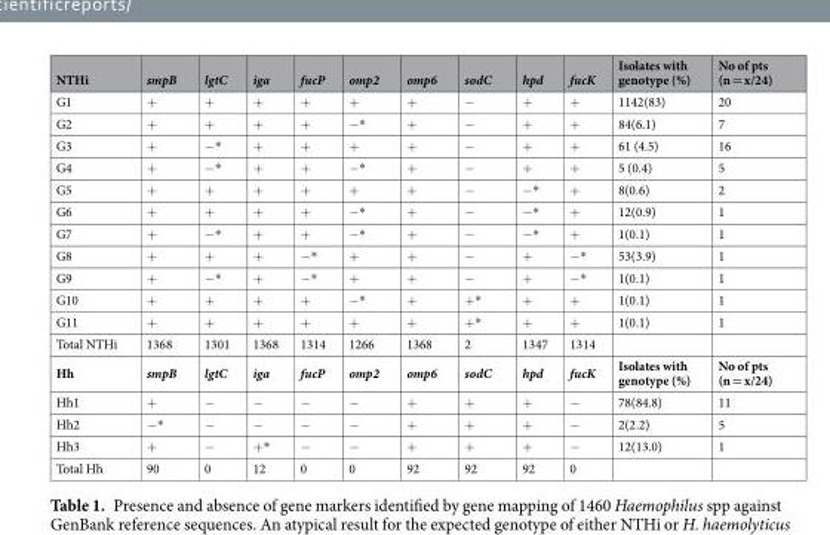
<table><thead><tr><td>NTHi</td><td>smpB</td><td>lgtC</td><td>iga</td><td>fucP</td><td>omp2</td><td>omp6</td><td>sodC</td><td>hpd</td><td>fucK</td><td>Isolates with genotype (%)</td><td>No of pts (n = x/24)</td></tr></thead><tbody><tr><td>G1</td><td>+</td><td>+</td><td>+</td><td>+</td><td>+</td><td>+</td><td>−</td><td>+</td><td>+</td><td>1142(83)</td><td>20</td></tr><tr><td>G2</td><td>+</td><td>+</td><td>+</td><td>+</td><td>−*</td><td>+</td><td>−</td><td>+</td><td>+</td><td>84(6.1)</td><td>7</td></tr><tr><td>G3</td><td>+</td><td>−*</td><td>+</td><td>+</td><td>+</td><td>+</td><td>−</td><td>+</td><td>+</td><td>61 (4.5)</td><td>16</td></tr><tr><td>G4</td><td>+</td><td>−*</td><td>+</td><td>+</td><td>−*</td><td>+</td><td>−</td><td>+</td><td>+</td><td>5 (0.4)</td><td>5</td></tr><tr><td>G5</td><td>+</td><td>+</td><td>+</td><td>+</td><td>+</td><td>+</td><td>−</td><td>−*</td><td>+</td><td>8(0.6)</td><td>2</td></tr><tr><td>G6</td><td>+</td><td>+</td><td>+</td><td>+</td><td>−*</td><td>+</td><td>−</td><td>−*</td><td>+</td><td>12(0.9)</td><td>1</td></tr><tr><td>G7</td><td>+</td><td>−*</td><td>+</td><td>+</td><td>−*</td><td>+</td><td>−</td><td>−*</td><td>+</td><td>1(0.1)</td><td>1</td></tr><tr><td>G8</td><td>+</td><td>+</td><td>+</td><td>−*</td><td>+</td><td>+</td><td>−</td><td>+</td><td>−*</td><td>53(3.9)</td><td>1</td></tr><tr><td>G9</td><td>+</td><td>−*</td><td>+</td><td>−*</td><td>+</td><td>+</td><td>−</td><td>+</td><td>−*</td><td>1(0.1)</td><td>1</td></tr><tr><td>G10</td><td>+</td><td>+</td><td>+</td><td>+</td><td>−*</td><td>+</td><td>+*</td><td>+</td><td>+</td><td>1(0.1)</td><td>1</td></tr><tr><td>G11</td><td>+</td><td>+</td><td>+</td><td>+</td><td>+</td><td>+</td><td>+*</td><td>+</td><td>+</td><td>1(0.1)</td><td>1</td></tr><tr><td>Total NTHi</td><td>1368</td><td>1301</td><td>1368</td><td>1314</td><td>1266</td><td>1368</td><td>2</td><td>1347</td><td>1314</td><td></td><td></td></tr><tr><td>Hh</td><td>smpB</td><td>lgtC</td><td>iga</td><td>fucP</td><td>omp2</td><td>omp6</td><td>sodC</td><td>hpd</td><td>fucK</td><td>Isolates with genotype (%)</td><td>No of pts (n = x/24)</td></tr><tr><td>Hh1</td><td>+</td><td>−</td><td>−</td><td>−</td><td>−</td><td>+</td><td>+</td><td>+</td><td>−</td><td>78(84.8)</td><td>11</td></tr><tr><td>Hh2</td><td>−*</td><td>−</td><td>−</td><td>−</td><td>−</td><td>+</td><td>+</td><td>+</td><td>−</td><td>2(2.2)</td><td>5</td></tr><tr><td>Hh3</td><td>+</td><td>−</td><td>+*</td><td>−</td><td>−</td><td>+</td><td>+</td><td>+</td><td>−</td><td>12(13.0)</td><td>1</td></tr><tr><td>Total Hh</td><td>90</td><td>0</td><td>12</td><td>0</td><td>0</td><td>92</td><td>92</td><td>92</td><td>0</td><td></td><td></td></tr></tbody></table>